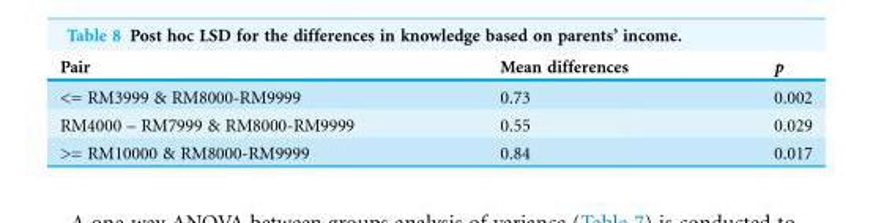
<table><thead><tr><td>Pair</td><td>Mean differences</td><td>p</td></tr></thead><tbody><tr><td>&lt;= RM3999 &amp; RM8000-RM9999</td><td>0.73</td><td>0.002</td></tr><tr><td>RM4000 – RM7999 &amp; RM8000-RM9999</td><td>0.55</td><td>0.029</td></tr><tr><td>&gt;= RM10000 &amp; RM8000-RM9999</td><td>0.84</td><td>0.017</td></tr></tbody></table>